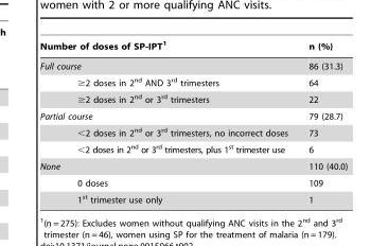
<table><thead><tr><td>Number of doses of SP-IPT<sup>1</sup></td><td>n (%)</td></tr></thead><tbody><tr><td>Full course</td><td>86 (31.3)</td></tr><tr><td>≥2 doses in 2<sup>nd</sup> AND 3<sup>rd</sup> trimesters</td><td>64</td></tr><tr><td>≥2 doses in 2<sup>nd</sup> or 3<sup>rd</sup> trimesters</td><td>22</td></tr><tr><td>Partial course</td><td>79 (28.7)</td></tr><tr><td>&lt;2 doses in 2<sup>nd</sup> or 3<sup>rd</sup> trimesters, no incorrect doses</td><td>73</td></tr><tr><td>&lt;2 doses in 2<sup>nd</sup> or 3<sup>rd</sup> trimesters, plus 1<sup>st</sup> trimester use</td><td>6</td></tr><tr><td>None</td><td>110 (40.0)</td></tr><tr><td>0 doses</td><td>109</td></tr><tr><td>1<sup>st</sup> trimester use only</td><td>1</td></tr></tbody></table>